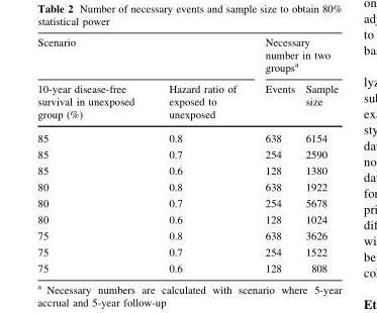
<table><thead><tr><td colspan="2">Scenario</td><td colspan="2">Necessary number in two groups<sup>a</sup></td></tr><tr><td>10-year disease-free survival in unexposed group (%)</td><td>Hazard ratio of exposed to unexposed</td><td>Events</td><td>Sample size</td></tr></thead><tbody><tr><td>85</td><td>0.8</td><td>638</td><td>6154</td></tr><tr><td>85</td><td>0.7</td><td>254</td><td>2590</td></tr><tr><td>85</td><td>0.6</td><td>128</td><td>1380</td></tr><tr><td>80</td><td>0.8</td><td>638</td><td>1922</td></tr><tr><td>80</td><td>0.7</td><td>254</td><td>5678</td></tr><tr><td>80</td><td>0.6</td><td>128</td><td>1024</td></tr><tr><td>75</td><td>0.8</td><td>638</td><td>3626</td></tr><tr><td>75</td><td>0.7</td><td>254</td><td>1522</td></tr><tr><td>75</td><td>0.6</td><td>128</td><td>808</td></tr></tbody></table>